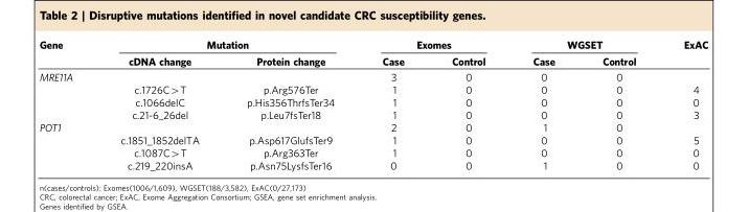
<table><thead><tr><td rowspan="2">Gene</td><td colspan="2">Mutation</td><td colspan="2">Exomes</td><td colspan="2">WGSET</td><td rowspan="2">ExAC</td></tr><tr><td>cDNA change</td><td>Protein change</td><td>Case</td><td>Control</td><td>Case</td><td>Control</td></tr></thead><tbody><tr><td rowspan="4">MRE11A</td><td></td><td></td><td>3</td><td>0</td><td>0</td><td>0</td><td></td></tr><tr><td>c.1726C&gt;T</td><td>p.Arg576Ter</td><td>1</td><td>0</td><td>0</td><td>0</td><td>4</td></tr><tr><td>c.1066delC</td><td>p.His356ThrfsTer34</td><td>1</td><td>0</td><td>0</td><td>0</td><td>0</td></tr><tr><td>c.21-6_26del</td><td>p.Leu7fsTer18</td><td>1</td><td>0</td><td>0</td><td>0</td><td>3</td></tr><tr><td rowspan="4">POT1</td><td></td><td></td><td>2</td><td>0</td><td>1</td><td>0</td><td></td></tr><tr><td>c.1851_1852delTA</td><td>p.Asp617GlufsTer9</td><td>1</td><td>0</td><td>0</td><td>0</td><td>5</td></tr><tr><td>c.1087C&gt;T</td><td>p.Arg363Ter</td><td>1</td><td>0</td><td>0</td><td>0</td><td>0</td></tr><tr><td>c.219_220insA</td><td>p.Asn75LysfsTer16</td><td>0</td><td>0</td><td>1</td><td>0</td><td>0</td></tr></tbody></table>